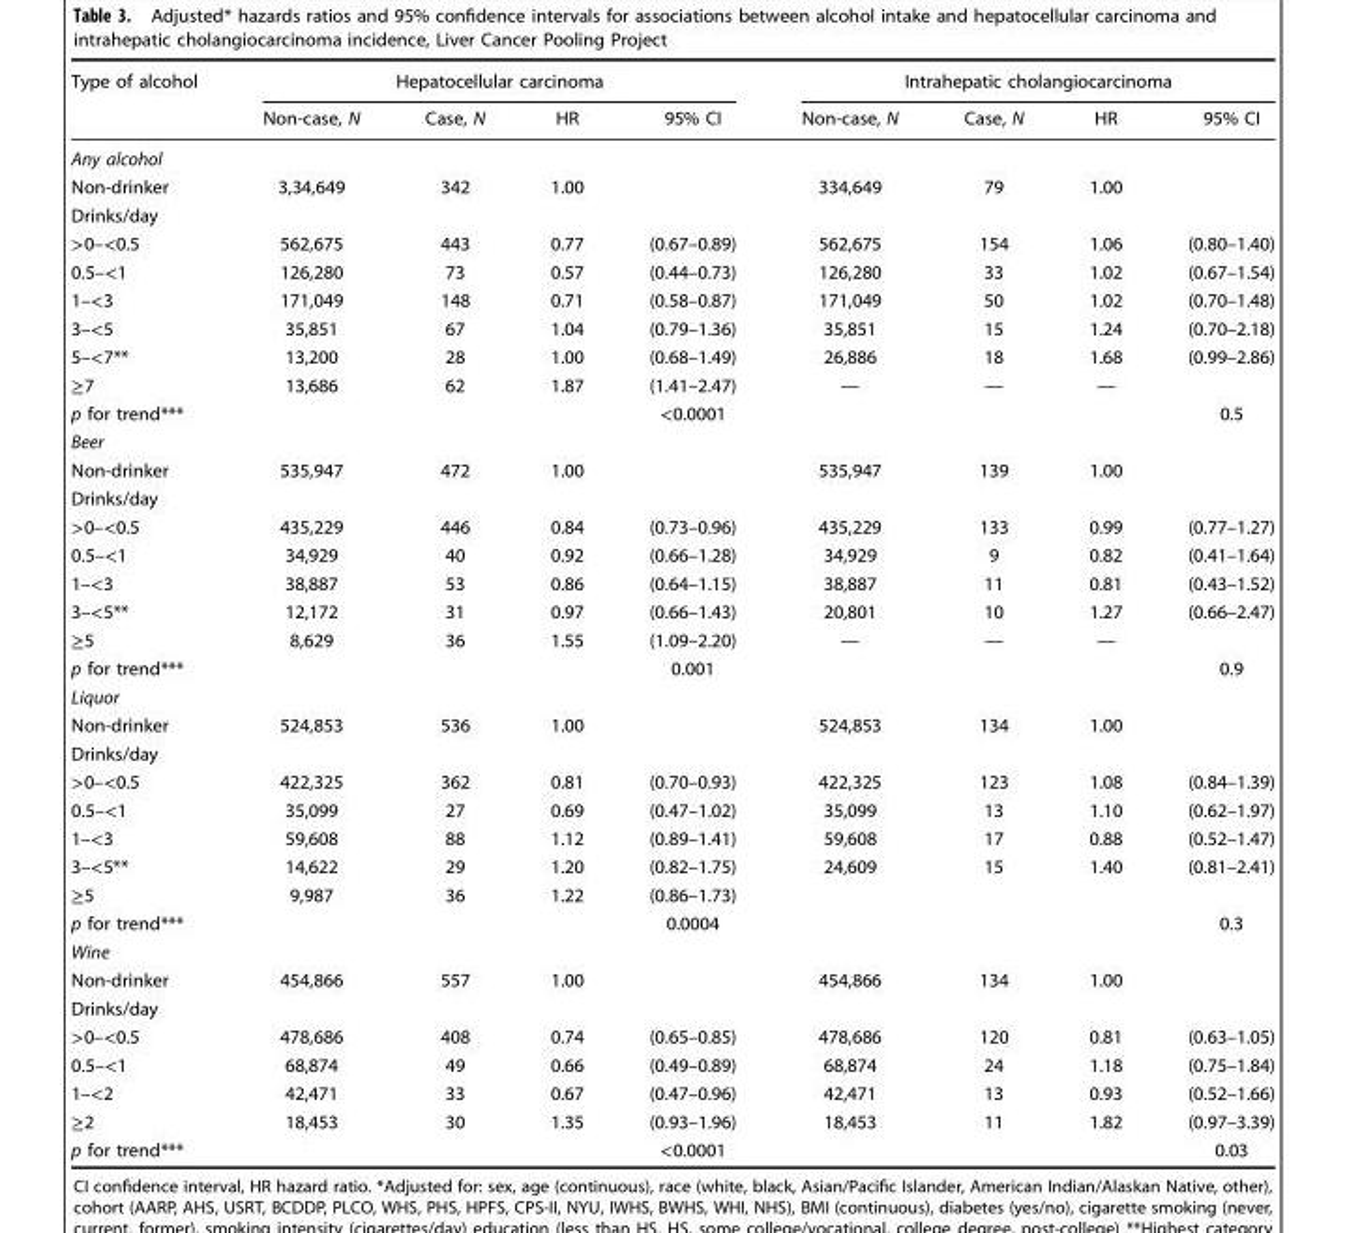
<table><thead><tr><td rowspan="2">Type of alcohol</td><td colspan="4">Hepatocellular carcinoma</td><td colspan="4">Intrahepatic cholangiocarcinoma</td></tr><tr><td>Non-case, N</td><td>Case, N</td><td>HR</td><td>95% CI</td><td>Non-case, N</td><td>Case, N</td><td>HR</td><td>95% CI</td></tr></thead><tbody><tr><td colspan="9">Any alcohol</td></tr><tr><td>Non-drinker</td><td>3,34,649</td><td>342</td><td>1.00</td><td></td><td>334,649</td><td>79</td><td>1.00</td><td></td></tr><tr><td colspan="9">Drinks/day</td></tr><tr><td>&gt;0–&lt;0.5</td><td>562,675</td><td>443</td><td>0.77</td><td>(0.67–0.89)</td><td>562,675</td><td>154</td><td>1.06</td><td>(0.80–1.40)</td></tr><tr><td>0.5–&lt;1</td><td>126,280</td><td>73</td><td>0.57</td><td>(0.44–0.73)</td><td>126,280</td><td>33</td><td>1.02</td><td>(0.67–1.54)</td></tr><tr><td>1–&lt;3</td><td>171,049</td><td>148</td><td>0.71</td><td>(0.58–0.87)</td><td>171,049</td><td>50</td><td>1.02</td><td>(0.70–1.48)</td></tr><tr><td>3–&lt;5</td><td>35,851</td><td>67</td><td>1.04</td><td>(0.79–1.36)</td><td>35,851</td><td>15</td><td>1.24</td><td>(0.70–2.18)</td></tr><tr><td>5–&lt;7**</td><td>13,200</td><td>28</td><td>1.00</td><td>(0.68–1.49)</td><td>26,886</td><td>18</td><td>1.68</td><td>(0.99–2.86)</td></tr><tr><td>≥7</td><td>13,686</td><td>62</td><td>1.87</td><td>(1.41–2.47)</td><td>—</td><td>—</td><td>—</td><td></td></tr><tr><td>p for trend***</td><td></td><td></td><td></td><td>&lt;0.0001</td><td></td><td></td><td></td><td>0.5</td></tr><tr><td colspan="9">Beer</td></tr><tr><td>Non-drinker</td><td>535,947</td><td>472</td><td>1.00</td><td></td><td>535,947</td><td>139</td><td>1.00</td><td></td></tr><tr><td colspan="9">Drinks/day</td></tr><tr><td>&gt;0–&lt;0.5</td><td>435,229</td><td>446</td><td>0.84</td><td>(0.73–0.96)</td><td>435,229</td><td>133</td><td>0.99</td><td>(0.77–1.27)</td></tr><tr><td>0.5–&lt;1</td><td>34,929</td><td>40</td><td>0.92</td><td>(0.66–1.28)</td><td>34,929</td><td>9</td><td>0.82</td><td>(0.41–1.64)</td></tr><tr><td>1–&lt;3</td><td>38,887</td><td>53</td><td>0.86</td><td>(0.64–1.15)</td><td>38,887</td><td>11</td><td>0.81</td><td>(0.43–1.52)</td></tr><tr><td>3–&lt;5**</td><td>12,172</td><td>31</td><td>0.97</td><td>(0.66–1.43)</td><td>20,801</td><td>10</td><td>1.27</td><td>(0.66–2.47)</td></tr><tr><td>≥5</td><td>8,629</td><td>36</td><td>1.55</td><td>(1.09–2.20)</td><td>—</td><td>—</td><td>—</td><td></td></tr><tr><td>p for trend***</td><td></td><td></td><td></td><td>0.001</td><td></td><td></td><td></td><td>0.9</td></tr><tr><td colspan="9">Liquor</td></tr><tr><td>Non-drinker</td><td>524,853</td><td>536</td><td>1.00</td><td></td><td>524,853</td><td>134</td><td>1.00</td><td></td></tr><tr><td colspan="9">Drinks/day</td></tr><tr><td>&gt;0–&lt;0.5</td><td>422,325</td><td>362</td><td>0.81</td><td>(0.70–0.93)</td><td>422,325</td><td>123</td><td>1.08</td><td>(0.84–1.39)</td></tr><tr><td>0.5–&lt;1</td><td>35,099</td><td>27</td><td>0.69</td><td>(0.47–1.02)</td><td>35,099</td><td>13</td><td>1.10</td><td>(0.62–1.97)</td></tr><tr><td>1–&lt;3</td><td>59,608</td><td>88</td><td>1.12</td><td>(0.89–1.41)</td><td>59,608</td><td>17</td><td>0.88</td><td>(0.52–1.47)</td></tr><tr><td>3–&lt;5**</td><td>14,622</td><td>29</td><td>1.20</td><td>(0.82–1.75)</td><td>24,609</td><td>15</td><td>1.40</td><td>(0.81–2.41)</td></tr><tr><td>≥5</td><td>9,987</td><td>36</td><td>1.22</td><td>(0.86–1.73)</td><td></td><td></td><td></td><td></td></tr><tr><td>p for trend***</td><td></td><td></td><td></td><td>0.0004</td><td></td><td></td><td></td><td>0.3</td></tr><tr><td colspan="9">Wine</td></tr><tr><td>Non-drinker</td><td>454,866</td><td>557</td><td>1.00</td><td></td><td>454,866</td><td>134</td><td>1.00</td><td></td></tr><tr><td colspan="9">Drinks/day</td></tr><tr><td>&gt;0–&lt;0.5</td><td>478,686</td><td>408</td><td>0.74</td><td>(0.65–0.85)</td><td>478,686</td><td>120</td><td>0.81</td><td>(0.63–1.05)</td></tr><tr><td>0.5–&lt;1</td><td>68,874</td><td>49</td><td>0.66</td><td>(0.49–0.89)</td><td>68,874</td><td>24</td><td>1.18</td><td>(0.75–1.84)</td></tr><tr><td>1–&lt;2</td><td>42,471</td><td>33</td><td>0.67</td><td>(0.47–0.96)</td><td>42,471</td><td>13</td><td>0.93</td><td>(0.52–1.66)</td></tr><tr><td>≥2</td><td>18,453</td><td>30</td><td>1.35</td><td>(0.93–1.96)</td><td>18,453</td><td>11</td><td>1.82</td><td>(0.97–3.39)</td></tr><tr><td>p for trend***</td><td></td><td></td><td></td><td>&lt;0.0001</td><td></td><td></td><td></td><td>0.03</td></tr></tbody></table>